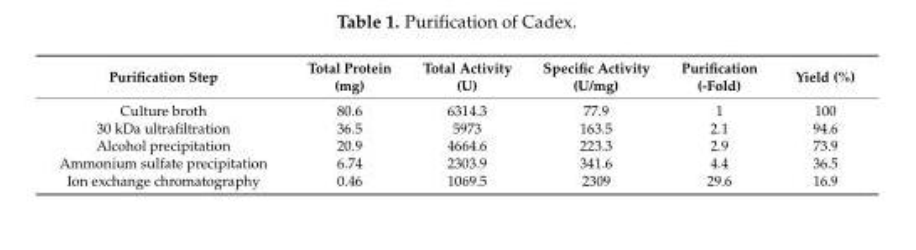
<table><thead><tr><td>Purification Step</td><td>Total Protein (mg)</td><td>Total Activity (U)</td><td>Specific Activity (U/mg)</td><td>Purification (-Fold)</td><td>Yield (%)</td></tr></thead><tbody><tr><td>Culture broth</td><td>80.6</td><td>6314.3</td><td>77.9</td><td>1</td><td>100</td></tr><tr><td>30 kDa ultrafiltration</td><td>36.5</td><td>5973</td><td>163.5</td><td>2.1</td><td>94.6</td></tr><tr><td>Alcohol precipitation</td><td>20.9</td><td>4664.6</td><td>223.3</td><td>2.9</td><td>73.9</td></tr><tr><td>Ammonium sulfate precipitation</td><td>6.74</td><td>2303.9</td><td>341.6</td><td>4.4</td><td>36.5</td></tr><tr><td>Ion exchange chromatography</td><td>0.46</td><td>1069.5</td><td>2309</td><td>29.6</td><td>16.9</td></tr></tbody></table>